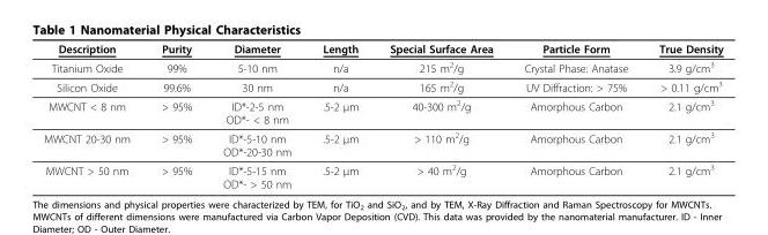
<table><thead><tr><td>Description</td><td>Purity</td><td>Diameter</td><td>Length</td><td>Special Surface Area</td><td>Particle Form</td><td>True Density</td></tr></thead><tbody><tr><td>Titanium Oxide</td><td>99%</td><td>5-10 nm</td><td>n/a</td><td>215 m<sup>2</sup>/g</td><td>Crystal Phase: Anatase</td><td>3.9 g/cm<sup>3</sup></td></tr><tr><td>Silicon Oxide</td><td>99.6%</td><td>30 nm</td><td>n/a</td><td>165 m<sup>2</sup>/g</td><td>UV Diffraction: &gt; 75%</td><td>&gt; 0.11 g/cm<sup>3</sup></td></tr><tr><td>MWCNT &lt; 8 nm</td><td>&gt; 95%</td><td>ID*-2-5 nm OD*- &lt; 8 nm</td><td>.5-2 μm</td><td>40-300 m<sup>2</sup>/g</td><td>Amorphous Carbon</td><td>2.1 g/cm<sup>3</sup></td></tr><tr><td>MWCNT 20-30 nm</td><td>&gt; 95%</td><td>ID*-5-10 nm OD*-20-30 nm</td><td>.5-2 μm</td><td>&gt; 110 m<sup>2</sup>/g</td><td>Amorphous Carbon</td><td>2.1 g/cm<sup>3</sup></td></tr><tr><td>MWCNT &gt; 50 nm</td><td>&gt; 95%</td><td>ID*-5-15 nm OD*- &gt; 50 nm</td><td>.5-2 μm</td><td>&gt; 40 m<sup>2</sup>/g</td><td>Amorphous Carbon</td><td>2.1 g/cm<sup>3</sup></td></tr></tbody></table>